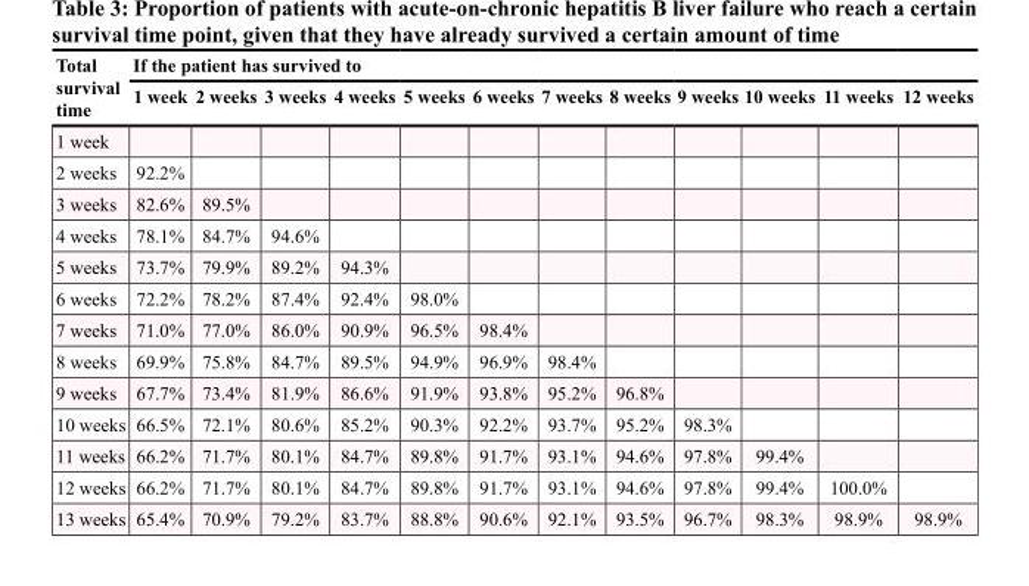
<table><thead><tr><td rowspan="2">Total survival time</td><td colspan="12">If the patient has survived to</td></tr><tr><td>1 week</td><td>2 weeks</td><td>3 weeks</td><td>4 weeks</td><td>5 weeks</td><td>6 weeks</td><td>7 weeks</td><td>8 weeks</td><td>9 weeks</td><td>10 weeks</td><td>11 weeks</td><td>12 weeks</td></tr></thead><tbody><tr><td colspan="13">1 week</td></tr><tr><td>2 weeks</td><td>92.2%</td><td></td><td></td><td></td><td></td><td></td><td></td><td></td><td></td><td></td><td></td><td></td></tr><tr><td>3 weeks</td><td>82.6%</td><td>89.5%</td><td></td><td></td><td></td><td></td><td></td><td></td><td></td><td></td><td></td><td></td></tr><tr><td>4 weeks</td><td>78.1%</td><td>84.7%</td><td>94.6%</td><td></td><td></td><td></td><td></td><td></td><td></td><td></td><td></td><td></td></tr><tr><td>5 weeks</td><td>73.7%</td><td>79.9%</td><td>89.2%</td><td>94.3%</td><td></td><td></td><td></td><td></td><td></td><td></td><td></td><td></td></tr><tr><td>6 weeks</td><td>72.2%</td><td>78.2%</td><td>87.4%</td><td>92.4%</td><td>98.0%</td><td></td><td></td><td></td><td></td><td></td><td></td><td></td></tr><tr><td>7 weeks</td><td>71.0%</td><td>77.0%</td><td>86.0%</td><td>90.9%</td><td>96.5%</td><td>98.4%</td><td></td><td></td><td></td><td></td><td></td><td></td></tr><tr><td>8 weeks</td><td>69.9%</td><td>75.8%</td><td>84.7%</td><td>89.5%</td><td>94.9%</td><td>96.9%</td><td>98.4%</td><td></td><td></td><td></td><td></td><td></td></tr><tr><td>9 weeks</td><td>67.7%</td><td>73.4%</td><td>81.9%</td><td>86.6%</td><td>91.9%</td><td>93.8%</td><td>95.2%</td><td>96.8%</td><td></td><td></td><td></td><td></td></tr><tr><td>10 weeks</td><td>66.5%</td><td>72.1%</td><td>80.6%</td><td>85.2%</td><td>90.3%</td><td>92.2%</td><td>93.7%</td><td>95.2%</td><td>98.3%</td><td></td><td></td><td></td></tr><tr><td>11 weeks</td><td>66.2%</td><td>71.7%</td><td>80.1%</td><td>84.7%</td><td>89.8%</td><td>91.7%</td><td>93.1%</td><td>94.6%</td><td>97.8%</td><td>99.4%</td><td></td><td></td></tr><tr><td>12 weeks</td><td>66.2%</td><td>71.7%</td><td>80.1%</td><td>84.7%</td><td>89.8%</td><td>91.7%</td><td>93.1%</td><td>94.6%</td><td>97.8%</td><td>99.4%</td><td>100.0%</td><td></td></tr><tr><td>13 weeks</td><td>65.4%</td><td>70.9%</td><td>79.2%</td><td>83.7%</td><td>88.8%</td><td>90.6%</td><td>92.1%</td><td>93.5%</td><td>96.7%</td><td>98.3%</td><td>98.9%</td><td>98.9%</td></tr></tbody></table>